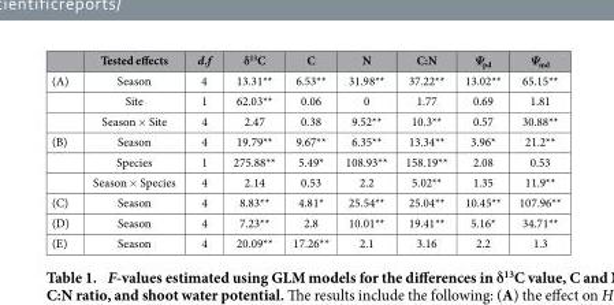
<table><thead><tr><td></td><td>Tested effects</td><td>d.f</td><td>δ<sup>13</sup>C</td><td>C</td><td>N</td><td>C:N</td><td>Ψ<sub>pd</sub></td><td>Ψ<sub>md</sub></td></tr></thead><tbody><tr><td rowspan="3">(A)</td><td>Season</td><td>4</td><td>13.31**</td><td>6.53**</td><td>31.98**</td><td>37.22**</td><td>13.02**</td><td>65.15**</td></tr><tr><td>Site</td><td>1</td><td>62.03**</td><td>0.06</td><td>0</td><td>1.77</td><td>0.69</td><td>1.81</td></tr><tr><td>Season × Site</td><td>4</td><td>2.47</td><td>0.38</td><td>9.52**</td><td>10.3**</td><td>0.57</td><td>30.88**</td></tr><tr><td rowspan="3">(B)</td><td>Season</td><td>4</td><td>19.79**</td><td>9.67**</td><td>6.35**</td><td>13.34**</td><td>3.96*</td><td>21.2**</td></tr><tr><td>Species</td><td>1</td><td>275.88**</td><td>5.49*</td><td>108.93**</td><td>158.19**</td><td>2.08</td><td>0.53</td></tr><tr><td>Season × Species</td><td>4</td><td>2.14</td><td>0.53</td><td>2.2</td><td>5.02**</td><td>1.35</td><td>11.9**</td></tr><tr><td>(C)</td><td>Season</td><td>4</td><td>8.83**</td><td>4.81*</td><td>25.54**</td><td>25.04**</td><td>10.45**</td><td>107.96**</td></tr><tr><td>(D)</td><td>Season</td><td>4</td><td>7.23**</td><td>2.8</td><td>10.01**</td><td>19.41**</td><td>5.16*</td><td>34.71**</td></tr><tr><td>(E)</td><td>Season</td><td>4</td><td>20.09**</td><td>17.26**</td><td>2.1</td><td>3.16</td><td>2.2</td><td>1.3</td></tr></tbody></table>